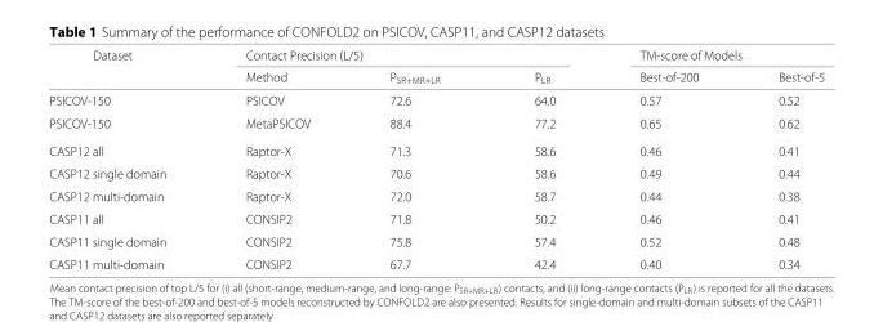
<table><thead><tr><td rowspan="2">Dataset</td><td colspan="3">Contact Precision (L/5)</td><td colspan="2">TM-score of Models</td></tr><tr><td>Method</td><td>P<sub>SR+MR+LR</sub></td><td>P<sub>LR</sub></td><td>Best-of-200</td><td>Best-of-5</td></tr></thead><tbody><tr><td>PSICOV-150</td><td>PSICOV</td><td>72.6</td><td>64.0</td><td>0.57</td><td>0.52</td></tr><tr><td>PSICOV-150</td><td>MetaPSICOV</td><td>88.4</td><td>77.2</td><td>0.65</td><td>0.62</td></tr><tr><td>CASP12 all</td><td>Raptor-X</td><td>71.3</td><td>58.6</td><td>0.46</td><td>0.41</td></tr><tr><td>CASP12 single domain</td><td>Raptor-X</td><td>70.6</td><td>58.6</td><td>0.49</td><td>0.44</td></tr><tr><td>CASP12 multi-domain</td><td>Raptor-X</td><td>72.0</td><td>58.7</td><td>0.44</td><td>0.38</td></tr><tr><td>CASP11 all</td><td>CONSIP2</td><td>71.8</td><td>50.2</td><td>0.46</td><td>0.41</td></tr><tr><td>CASP11 single domain</td><td>CONSIP2</td><td>75.8</td><td>57.4</td><td>0.52</td><td>0.48</td></tr><tr><td>CASP11 multi-domain</td><td>CONSIP2</td><td>67.7</td><td>42.4</td><td>0.40</td><td>0.34</td></tr></tbody></table>